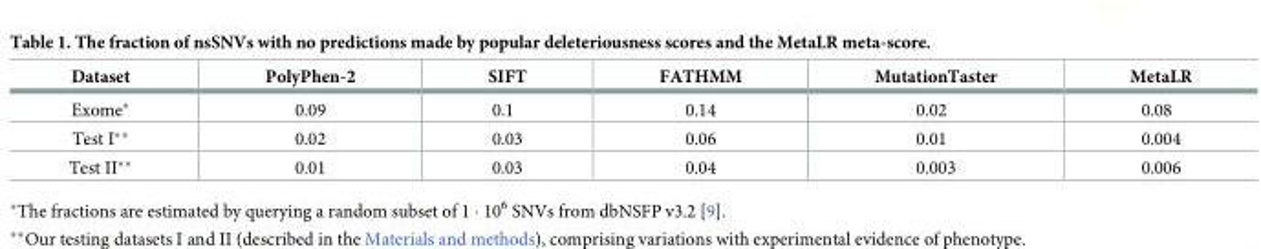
<table><thead><tr><td>Dataset</td><td>PolyPhen-2</td><td>SIFT</td><td>FATHMM</td><td>MutationTaster</td><td>MetaLR</td></tr></thead><tbody><tr><td>Exome*</td><td>0.09</td><td>0.1</td><td>0.14</td><td>0.02</td><td>0.08</td></tr><tr><td>Test I**</td><td>0.02</td><td>0.03</td><td>0.06</td><td>0.01</td><td>0.004</td></tr><tr><td>Test II**</td><td>0.01</td><td>0.03</td><td>0.04</td><td>0.003</td><td>0.006</td></tr></tbody></table>